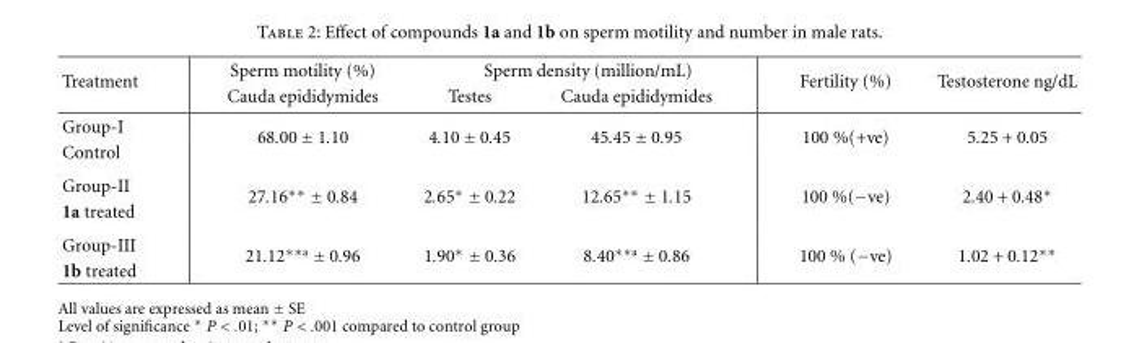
<table><tbody><tr><td rowspan="2">Treatment</td><td>Sperm motility (%)</td><td colspan="2">Sperm density (million/mL)</td><td rowspan="2">Fertility (%)</td><td rowspan="2">Testosterone ng/dL</td></tr><tr><td>Cauda epididymides</td><td>Testes</td><td>Cauda epididymides</td></tr><tr><td>Group-I</td><td rowspan="2">68.00 ± 1.10</td><td rowspan="2">4.10 ± 0.45</td><td rowspan="2">45.45 ± 0.95</td><td rowspan="2">100 %(+ve)</td><td rowspan="2">5.25 + 0.05</td></tr><tr><td>Control</td></tr><tr><td>Group-II</td><td rowspan="2">27.16∗∗ ± 0.84</td><td rowspan="2">2.65∗ ± 0.22</td><td rowspan="2">12.65∗∗ ± 1.15</td><td rowspan="2">100 %(−ve)</td><td rowspan="2">2.40 + 0.48∗</td></tr><tr><td>1a treated</td></tr><tr><td>Group-III</td><td rowspan="2">21.12∗∗a ± 0.96</td><td rowspan="2">1.90∗ ± 0.36</td><td rowspan="2">8.40∗∗a ± 0.86</td><td rowspan="2">100 % (−ve)</td><td rowspan="2">1.02 + 0.12∗∗</td></tr><tr><td>1b treated</td></tr></tbody></table>